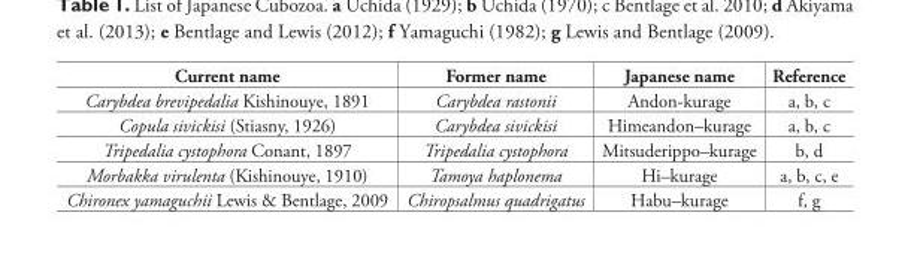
<table><thead><tr><td>Current name</td><td>Former name</td><td>Japanese name</td><td>Reference</td></tr></thead><tbody><tr><td>Carybdea brevipedalia Kishinouye, 1891</td><td>Carybdea rastonii</td><td>Andon-kurage</td><td>a, b, c</td></tr><tr><td>Copula sivickisi (Stiasny, 1926)</td><td>Carybdea sivickisi</td><td>Himeandon–kurage</td><td>a, b, c</td></tr><tr><td>Tripedalia cystophora Conant, 1897</td><td>Tripedalia cystophora</td><td>Mitsuderippo–kurage</td><td>b, d</td></tr><tr><td>Morbakka virulenta (Kishinouye, 1910)</td><td>Tamoya haplonema</td><td>Hi–kurage</td><td>a, b, c, e</td></tr><tr><td>Chironex yamaguchii Lewis &amp; Bentlage, 2009</td><td>Chiropsalmus quadrigatus</td><td>Habu–kurage</td><td>f, g</td></tr></tbody></table>